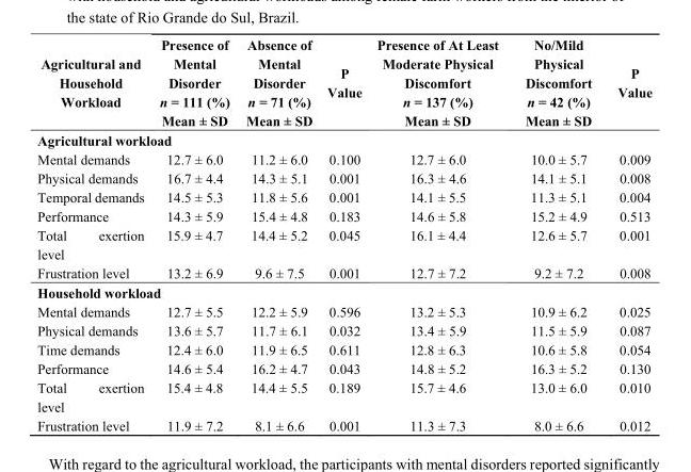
<table><thead><tr><td rowspan="3">Agricultural and Household Workload</td><td rowspan="3">Presence of Mental Disorder n = 111 (%) Mean ± SD</td><td rowspan="3">Absence of Mental Disorder n = 71 (%) Mean ± SD</td><td rowspan="3">P Value</td><td rowspan="3">Presence of At Least Moderate Physical Discomfort n = 137 (%) Mean ± SD</td><td rowspan="3">No/Mild Physical Discomfort n = 42 (%) Mean ± SD</td><td rowspan="3">P Value</td></tr><tr></tr><tr></tr></thead><tbody><tr><td colspan="7">Agricultural workload</td></tr><tr><td>Mental demands</td><td>12.7 ± 6.0</td><td>11.2 ± 6.0</td><td>0.100</td><td>12.7 ± 6.0</td><td>10.0 ± 5.7</td><td>0.009</td></tr><tr><td>Physical demands</td><td>16.7 ± 4.4</td><td>14.3 ± 5.1</td><td>0.001</td><td>16.3 ± 4.6</td><td>14.1 ± 5.1</td><td>0.008</td></tr><tr><td>Temporal demands</td><td>14.5 ± 5.3</td><td>11.8 ± 5.6</td><td>0.001</td><td>14.1 ± 5.5</td><td>11.3 ± 5.1</td><td>0.004</td></tr><tr><td>Performance</td><td>14.3 ± 5.9</td><td>15.4 ± 4.8</td><td>0.183</td><td>14.6 ± 5.8</td><td>15.2 ± 4.9</td><td>0.513</td></tr><tr><td>Total exertion level</td><td>15.9 ± 4.7</td><td>14.4 ± 5.2</td><td>0.045</td><td>16.1 ± 4.4</td><td>12.6 ± 5.7</td><td>0.001</td></tr><tr><td>Frustration level</td><td>13.2 ± 6.9</td><td>9.6 ± 7.5</td><td>0.001</td><td>12.7 ± 7.2</td><td>9.2 ± 7.2</td><td>0.008</td></tr><tr><td colspan="7">Household workload</td></tr><tr><td>Mental demands</td><td>12.7 ± 5.5</td><td>12.2 ± 5.9</td><td>0.596</td><td>13.2 ± 5.3</td><td>10.9 ± 6.2</td><td>0.025</td></tr><tr><td>Physical demands</td><td>13.6 ± 5.7</td><td>11.7 ± 6.1</td><td>0.032</td><td>13.4 ± 5.9</td><td>11.5 ± 5.9</td><td>0.087</td></tr><tr><td>Time demands</td><td>12.4 ± 6.0</td><td>11.9 ± 6.5</td><td>0.611</td><td>12.8 ± 6.3</td><td>10.6 ± 5.8</td><td>0.054</td></tr><tr><td>Performance</td><td>14.6 ± 5.4</td><td>16.2 ± 4.7</td><td>0.043</td><td>14.8 ± 5.2</td><td>16.3 ± 5.2</td><td>0.130</td></tr><tr><td>Total exertion level</td><td>15.4 ± 4.8</td><td>14.4 ± 5.5</td><td>0.189</td><td>15.7 ± 4.6</td><td>13.0 ± 6.0</td><td>0.010</td></tr><tr><td>Frustration level</td><td>11.9 ± 7.2</td><td>8.1 ± 6.6</td><td>0.001</td><td>11.3 ± 7.3</td><td>8.0 ± 6.6</td><td>0.012</td></tr></tbody></table>